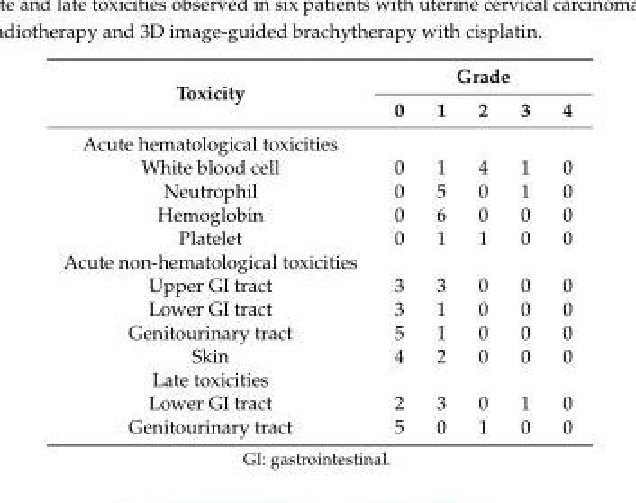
<table><thead><tr><td rowspan="2">Toxicity</td><td colspan="5">Grade</td></tr><tr><td>0</td><td>1</td><td>2</td><td>3</td><td>4</td></tr></thead><tbody><tr><td colspan="6">Acute hematological toxicities</td></tr><tr><td>White blood cell</td><td>0</td><td>1</td><td>4</td><td>1</td><td>0</td></tr><tr><td>Neutrophil</td><td>0</td><td>5</td><td>0</td><td>1</td><td>0</td></tr><tr><td>Hemoglobin</td><td>0</td><td>6</td><td>0</td><td>0</td><td>0</td></tr><tr><td>Platelet</td><td>0</td><td>1</td><td>1</td><td>0</td><td>0</td></tr><tr><td colspan="6">Acute non-hematological toxicities</td></tr><tr><td>Upper GI tract</td><td>3</td><td>3</td><td>0</td><td>0</td><td>0</td></tr><tr><td>Lower GI tract</td><td>3</td><td>1</td><td>0</td><td>0</td><td>0</td></tr><tr><td>Genitourinary tract</td><td>5</td><td>1</td><td>0</td><td>0</td><td>0</td></tr><tr><td>Skin</td><td>4</td><td>2</td><td>0</td><td>0</td><td>0</td></tr><tr><td colspan="6">Late toxicities</td></tr><tr><td>Lower GI tract</td><td>2</td><td>3</td><td>0</td><td>1</td><td>0</td></tr><tr><td>Genitourinary tract</td><td>5</td><td>0</td><td>1</td><td>0</td><td>0</td></tr></tbody></table>